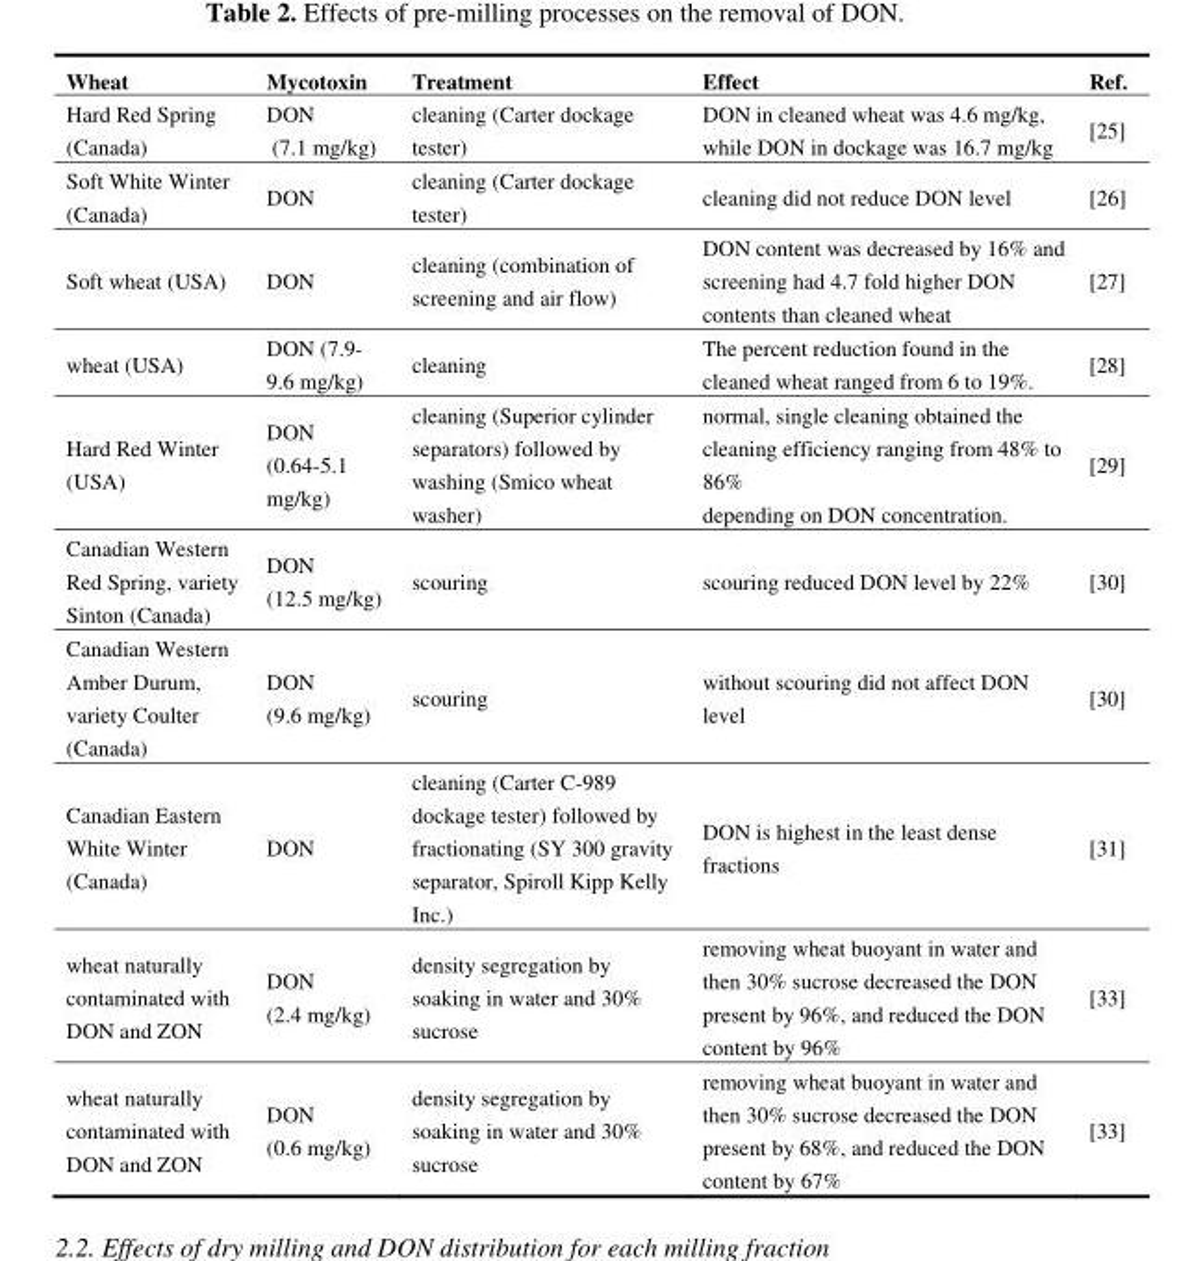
<table><thead><tr><td>Wheat</td><td>Mycotoxin</td><td>Treatment</td><td>Effect</td><td>Ref.</td></tr></thead><tbody><tr><td>Hard Red Spring (Canada)</td><td>DON (7.1 mg/kg)</td><td>cleaning (Carter dockage tester)</td><td>DON in cleaned wheat was 4.6 mg/kg, while DON in dockage was 16.7 mg/kg</td><td>[25]</td></tr><tr><td>Soft White Winter (Canada)</td><td>DON</td><td>cleaning (Carter dockage tester)</td><td>cleaning did not reduce DON level</td><td>[26]</td></tr><tr><td>Soft wheat (USA)</td><td>DON</td><td>cleaning (combination of screening and air flow)</td><td>DON content was decreased by 16% and screening had 4.7 fold higher DON contents than cleaned wheat</td><td>[27]</td></tr><tr><td>wheat (USA)</td><td>DON (7.9- 9.6 mg/kg)</td><td>cleaning</td><td>The percent reduction found in the cleaned wheat ranged from 6 to 19%.</td><td>[28]</td></tr><tr><td>Hard Red Winter (USA)</td><td>DON (0.64-5.1 mg/kg)</td><td>cleaning (Superior cylinder separators) followed by washing (Smico wheat washer)</td><td>normal, single cleaning obtained the cleaning efficiency ranging from 48% to 86% depending on DON concentration.</td><td>[29]</td></tr><tr><td>Canadian Western Red Spring, variety Sinton (Canada)</td><td>DON (12.5 mg/kg)</td><td>scouring</td><td>scouring reduced DON level by 22%</td><td>[30]</td></tr><tr><td>Canadian Western Amber Durum, variety Coulter (Canada)</td><td>DON (9.6 mg/kg)</td><td>scouring</td><td>without scouring did not affect DON level</td><td>[30]</td></tr><tr><td>Canadian Eastern White Winter (Canada)</td><td>DON</td><td>cleaning (Carter C-989 dockage tester) followed by fractionating (SY 300 gravity separator, Spiroll Kipp Kelly Inc.)</td><td>DON is highest in the least dense fractions</td><td>[31]</td></tr><tr><td>wheat naturally contaminated with DON and ZON</td><td>DON (2.4 mg/kg)</td><td>density segregation by soaking in water and 30% sucrose</td><td>removing wheat buoyant in water and then 30% sucrose decreased the DON present by 96%, and reduced the DON content by 96%</td><td>[33]</td></tr><tr><td>wheat naturally contaminated with DON and ZON</td><td>DON (0.6 mg/kg)</td><td>density segregation by soaking in water and 30% sucrose</td><td>removing wheat buoyant in water and then 30% sucrose decreased the DON present by 68%, and reduced the DON content by 67%</td><td>[33]</td></tr></tbody></table>